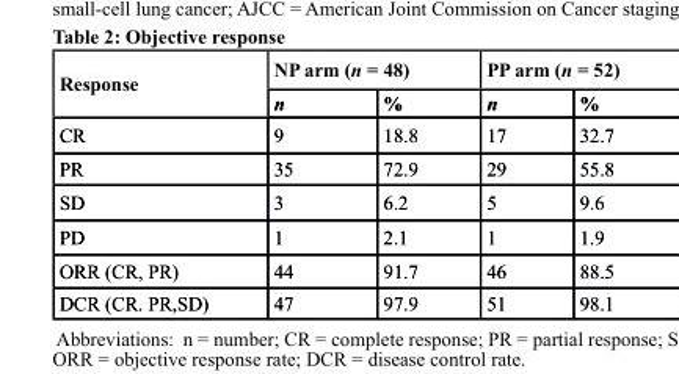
<table><thead><tr><td rowspan="2">response</td><td colspan="2">NP arm (n = 48)</td><td colspan="2">PP arm (n = 52)</td></tr><tr><td>n</td><td>%</td><td>n</td><td>%</td></tr></thead><tbody><tr><td>CR</td><td>9</td><td>18.8</td><td>17</td><td>32.7</td></tr><tr><td>PR</td><td>35</td><td>72.9</td><td>29</td><td>55.8</td></tr><tr><td>SD</td><td>3</td><td>6.2</td><td>5</td><td>9.6</td></tr><tr><td>PD</td><td>1</td><td>2.1</td><td>1</td><td>1.9</td></tr><tr><td>ORR (CR, PR)</td><td>44</td><td>91.7</td><td>46</td><td>88.5</td></tr><tr><td>DCR (CR. PR,SD)</td><td>47</td><td>97.9</td><td>51</td><td>98.1</td></tr></tbody></table>